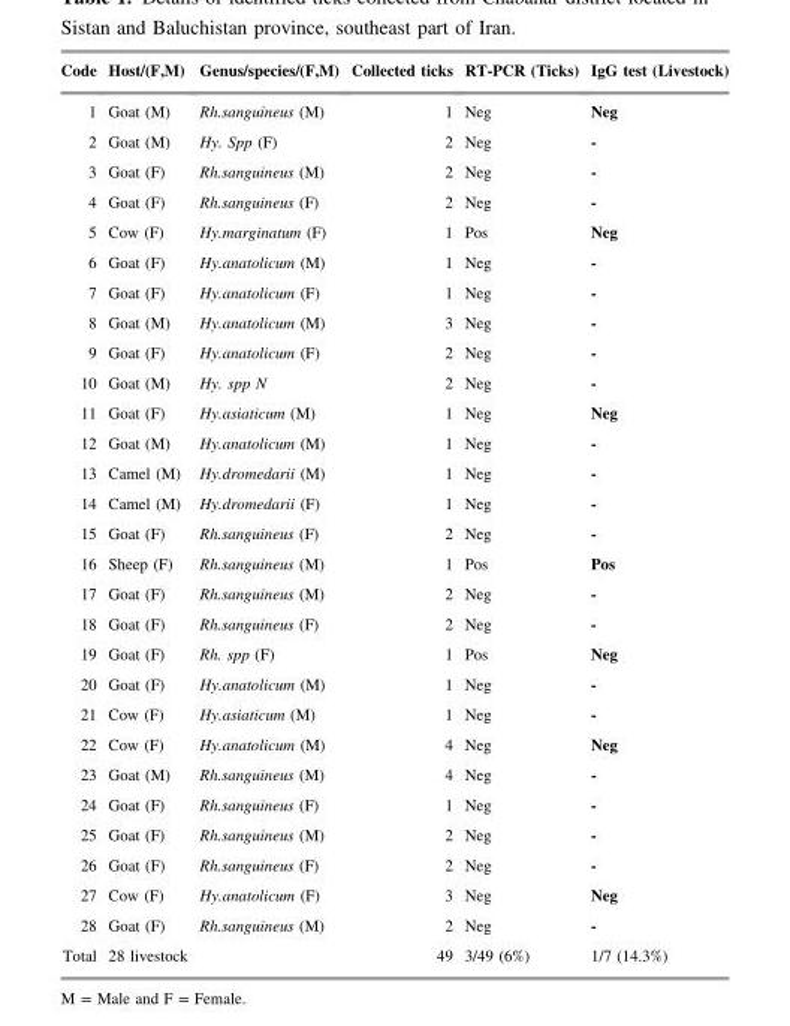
<table><thead><tr><td>Code</td><td>Host/(F,M)</td><td>Genus/species/(F,M)</td><td>Collected ticks</td><td>RT-PCR (Ticks)</td><td>IgG test (Livestock)</td></tr></thead><tbody><tr><td>1</td><td>Goat (M)</td><td>Rh.sanguineus (M)</td><td>1</td><td>Neg</td><td>Neg</td></tr><tr><td>2</td><td>Goat (M)</td><td>Hy. Spp (F)</td><td>2</td><td>Neg</td><td>-</td></tr><tr><td>3</td><td>Goat (F)</td><td>Rh.sanguineus (M)</td><td>2</td><td>Neg</td><td>-</td></tr><tr><td>4</td><td>Goat (F)</td><td>Rh.sanguineus (F)</td><td>2</td><td>Neg</td><td>-</td></tr><tr><td>5</td><td>Cow (F)</td><td>Hy.marginatum (F)</td><td>1</td><td>Pos</td><td>Neg</td></tr><tr><td>6</td><td>Goat (F)</td><td>Hy.anatolicum (M)</td><td>1</td><td>Neg</td><td>-</td></tr><tr><td>7</td><td>Goat (F)</td><td>Hy.anatolicum (F)</td><td>1</td><td>Neg</td><td>-</td></tr><tr><td>8</td><td>Goat (M)</td><td>Hy.anatolicum (M)</td><td>3</td><td>Neg</td><td>-</td></tr><tr><td>9</td><td>Goat (F)</td><td>Hy.anatolicum (F)</td><td>2</td><td>Neg</td><td>-</td></tr><tr><td>10</td><td>Goat (M)</td><td>Hy. spp N</td><td>2</td><td>Neg</td><td>-</td></tr><tr><td>11</td><td>Goat (F)</td><td>Hy.asiaticum (M)</td><td>1</td><td>Neg</td><td>Neg</td></tr><tr><td>12</td><td>Goat (M)</td><td>Hy.anatolicum (M)</td><td>1</td><td>Neg</td><td>-</td></tr><tr><td>13</td><td>Camel (M)</td><td>Hy.dromedarii (M)</td><td>1</td><td>Neg</td><td>-</td></tr><tr><td>14</td><td>Camel (M)</td><td>Hy.dromedarii (F)</td><td>1</td><td>Neg</td><td>-</td></tr><tr><td>15</td><td>Goat (F)</td><td>Rh.sanguineus (F)</td><td>2</td><td>Neg</td><td>-</td></tr><tr><td>16</td><td>Sheep (F)</td><td>Rh.sanguineus (M)</td><td>1</td><td>Pos</td><td>Pos</td></tr><tr><td>17</td><td>Goat (F)</td><td>Rh.sanguineus (M)</td><td>2</td><td>Neg</td><td>-</td></tr><tr><td>18</td><td>Goat (F)</td><td>Rh.sanguineus (F)</td><td>2</td><td>Neg</td><td>-</td></tr><tr><td>19</td><td>Goat (F)</td><td>Rh. spp (F)</td><td>1</td><td>Pos</td><td>Neg</td></tr><tr><td>20</td><td>Goat (F)</td><td>Hy.anatolicum (M)</td><td>1</td><td>Neg</td><td>-</td></tr><tr><td>21</td><td>Cow (F)</td><td>Hy.asiaticum (M)</td><td>1</td><td>Neg</td><td>-</td></tr><tr><td>22</td><td>Cow (F)</td><td>Hy.anatolicum (M)</td><td>4</td><td>Neg</td><td>Neg</td></tr><tr><td>23</td><td>Goat (M)</td><td>Rh.sanguineus (M)</td><td>4</td><td>Neg</td><td>-</td></tr><tr><td>24</td><td>Goat (F)</td><td>Rh.sanguineus (F)</td><td>1</td><td>Neg</td><td>-</td></tr><tr><td>25</td><td>Goat (F)</td><td>Rh.sanguineus (M)</td><td>2</td><td>Neg</td><td>-</td></tr><tr><td>26</td><td>Goat (F)</td><td>Rh.sanguineus (F)</td><td>2</td><td>Neg</td><td>-</td></tr><tr><td>27</td><td>Cow (F)</td><td>Hy.anatolicum (F)</td><td>3</td><td>Neg</td><td>Neg</td></tr><tr><td>28</td><td>Goat (F)</td><td>Rh.sanguineus (M)</td><td>2</td><td>Neg</td><td>-</td></tr><tr><td>Total</td><td>28 livestock</td><td></td><td>49</td><td>3/49 (6%)</td><td>1/7 (14.3%)</td></tr></tbody></table>